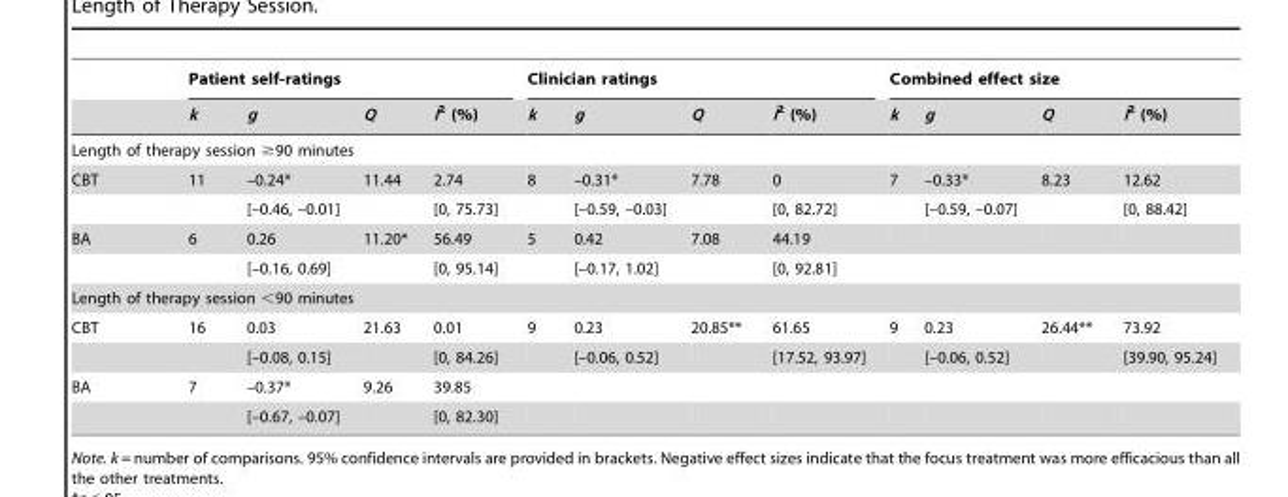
<table><thead><tr><td rowspan="2"></td><td colspan="4">Patient self-ratings</td><td colspan="4">Clinician ratings</td><td colspan="4">Combined effect size</td></tr><tr><td>k</td><td>g</td><td>Q</td><td>I<sup>2</sup> (%)</td><td>k</td><td>g</td><td>Q</td><td>I<sup>2</sup> (%)</td><td>k</td><td>g</td><td>Q</td><td>I<sup>2</sup> (%)</td></tr></thead><tbody><tr><td colspan="13">Length of therapy session ≥90 minutes</td></tr><tr><td rowspan="2">CBT</td><td>11</td><td>–0.24*</td><td>11.44</td><td>2.74</td><td>8</td><td>–0.31*</td><td>7.78</td><td>0</td><td>7</td><td>–0.33*</td><td>8.23</td><td>12.62</td></tr><tr><td></td><td>[–0.46, –0.01]</td><td></td><td>[0, 75.73]</td><td></td><td>[–0.59, –0.03]</td><td></td><td>[0, 82.72]</td><td></td><td>[–0.59, –0.07]</td><td></td><td>[0, 88.42]</td></tr><tr><td rowspan="2">BA</td><td>6</td><td>0.26</td><td>11.20*</td><td>56.49</td><td>5</td><td>0.42</td><td>7.08</td><td>44.19</td><td></td><td></td><td></td><td></td></tr><tr><td></td><td>[–0.16, 0.69]</td><td></td><td>[0, 95.14]</td><td></td><td>[–0.17, 1.02]</td><td></td><td>[0, 92.81]</td><td></td><td></td><td></td><td></td></tr><tr><td colspan="13">Length of therapy session &lt;90 minutes</td></tr><tr><td rowspan="2">CBT</td><td>16</td><td>0.03</td><td>21.63</td><td>0.01</td><td>9</td><td>0.23</td><td>20.85**</td><td>61.65</td><td>9</td><td>0.23</td><td>26.44**</td><td>73.92</td></tr><tr><td></td><td>[–0.08, 0.15]</td><td></td><td>[0, 84.26]</td><td></td><td>[–0.06, 0.52]</td><td></td><td>[17.52, 93.97]</td><td></td><td>[–0.06, 0.52]</td><td></td><td>[39.90, 95.24]</td></tr><tr><td rowspan="2">BA</td><td>7</td><td>–0.37*</td><td>9.26</td><td>39.85</td><td></td><td></td><td></td><td></td><td></td><td></td><td></td><td></td></tr><tr><td></td><td>[–0.67, –0.07]</td><td></td><td>[0, 82.30]</td><td></td><td></td><td></td><td></td><td></td><td></td><td></td><td></td></tr></tbody></table>